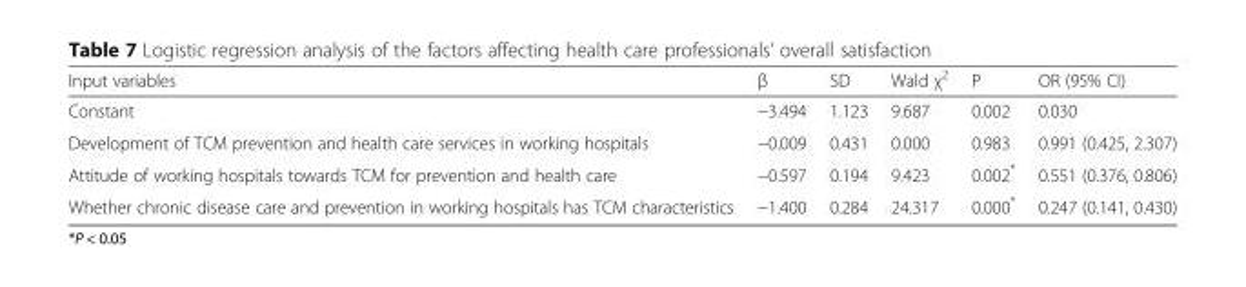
<table><thead><tr><td>Input variables</td><td>β</td><td>SD</td><td>Wald χ<sup>2</sup></td><td>P</td><td>OR (95% CI)</td></tr></thead><tbody><tr><td>Constant</td><td>−3.494</td><td>1.123</td><td>9.687</td><td>0.002</td><td>0.030</td></tr><tr><td>Development of TCM prevention and health care services in working hospitals</td><td>−0.009</td><td>0.431</td><td>0.000</td><td>0.983</td><td>0.991 (0.425, 2.307)</td></tr><tr><td>Attitude of working hospitals towards TCM for prevention and health care</td><td>−0.597</td><td>0.194</td><td>9.423</td><td>0.002*</td><td>0.551 (0.376, 0.806)</td></tr><tr><td>Whether chronic disease care and prevention in working hospitals has TCM characteristics</td><td>−1.400</td><td>0.284</td><td>24.317</td><td>0.000*</td><td>0.247 (0.141, 0.430)</td></tr></tbody></table>